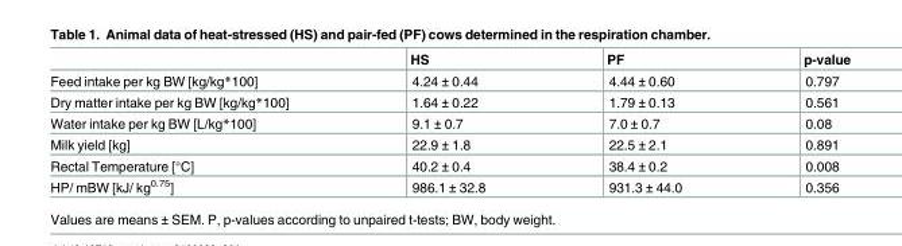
<table><thead><tr><td></td><td>HS</td><td>PF</td><td>p-value</td></tr></thead><tbody><tr><td>Feed intake per kg BW [kg/kg*100]</td><td>4.24 ± 0.44</td><td>4.44 ± 0.60</td><td>0.797</td></tr><tr><td>Dry matter intake per kg BW [kg/kg*100]</td><td>1.64 ± 0.22</td><td>1.79 ± 0.13</td><td>0.561</td></tr><tr><td>Water intake per kg BW [L/kg*100]</td><td>9.1 ± 0.7</td><td>7.0 ± 0.7</td><td>0.08</td></tr><tr><td>Milk yield [kg]</td><td>22.9 ± 1.8</td><td>22.5 ± 2.1</td><td>0.891</td></tr><tr><td>Rectal Temperature [°C]</td><td>40.2 ± 0.4</td><td>38.4 ± 0.2</td><td>0.008</td></tr><tr><td>HP/ mBW [kJ/ kg<sup>0.75</sup>]</td><td>986.1 ± 32.8</td><td>931.3 ± 44.0</td><td>0.356</td></tr></tbody></table>